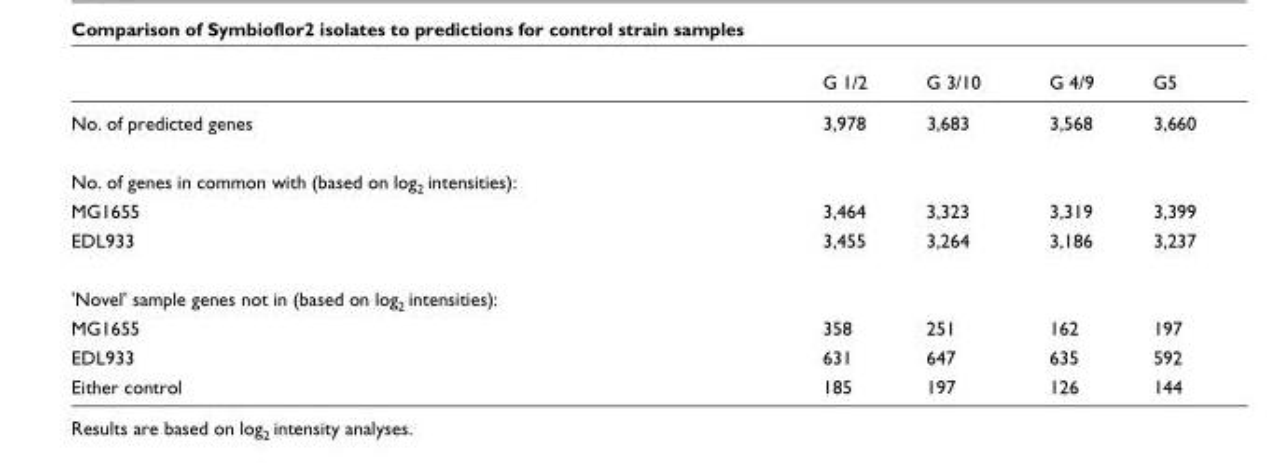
<table><thead><tr><td></td><td>G 1/2</td><td>G 3/10</td><td>G 4/9</td><td>G5</td></tr></thead><tbody><tr><td>No. of predicted genes</td><td>3,978</td><td>3,683</td><td>3,568</td><td>3,660</td></tr><tr><td colspan="5">No. of genes in common with (based on log<sub>2</sub> intensities):</td></tr><tr><td>MG1655</td><td>3,464</td><td>3,323</td><td>3,319</td><td>3,399</td></tr><tr><td>EDL933</td><td>3,455</td><td>3,264</td><td>3,186</td><td>3,237</td></tr><tr><td colspan="5">&#x27;Novel&#x27; sample genes not in (based on log<sub>2</sub> intensities):</td></tr><tr><td>MG1655</td><td>358</td><td>251</td><td>162</td><td>197</td></tr><tr><td>EDL933</td><td>631</td><td>647</td><td>635</td><td>592</td></tr><tr><td>Either control</td><td>185</td><td>197</td><td>126</td><td>144</td></tr></tbody></table>